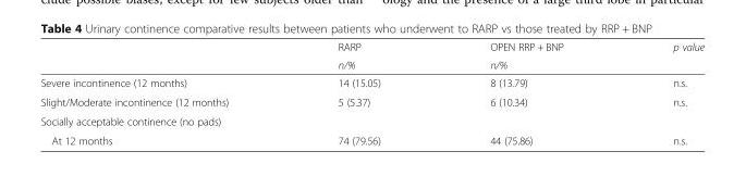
<table><thead><tr><td rowspan="2"></td><td rowspan="2">RARP n/%</td><td rowspan="2">OPEN RRP + BNP n/%</td><td rowspan="2">p value</td></tr><tr></tr></thead><tbody><tr><td>Severe incontinence (12 months)</td><td>14 (15.05)</td><td>8 (13.79)</td><td>n.s.</td></tr><tr><td>Slight/Moderate incontinence (12 months)</td><td>5 (5.37)</td><td>6 (10.34)</td><td>n.s.</td></tr><tr><td colspan="4">Socially acceptable continence (no pads)</td></tr><tr><td>At 12 months</td><td>74 (79.56)</td><td>44 (75.86)</td><td>n.s.</td></tr></tbody></table>